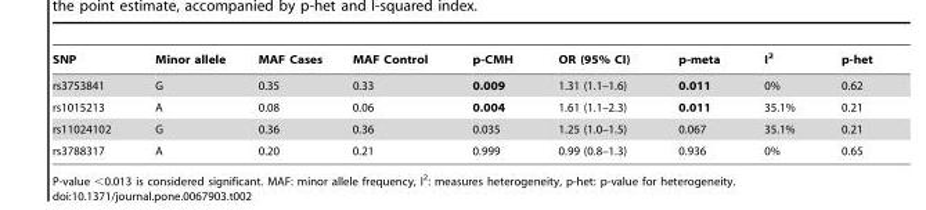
<table><thead><tr><td>SNP</td><td>Minor allele</td><td>MAF Cases</td><td>MAF Control</td><td>p-CMH</td><td>OR (95% CI)</td><td>p-meta</td><td>I<sup>2</sup></td><td>p-het</td></tr></thead><tbody><tr><td>rs3753841</td><td>G</td><td>0.35</td><td>0.33</td><td>0.009</td><td>1.31 (1.1–1.6)</td><td>0.011</td><td>0%</td><td>0.62</td></tr><tr><td>rs1015213</td><td>A</td><td>0.08</td><td>0.06</td><td>0.004</td><td>1.61 (1.1–2.3)</td><td>0.011</td><td>35.1%</td><td>0.21</td></tr><tr><td>rs11024102</td><td>G</td><td>0.36</td><td>0.36</td><td>0.035</td><td>1.25 (1.0–1.5)</td><td>0.067</td><td>35.1%</td><td>0.21</td></tr><tr><td>rs3788317</td><td>A</td><td>0.20</td><td>0.21</td><td>0.999</td><td>0.99 (0.8–1.3)</td><td>0.936</td><td>0%</td><td>0.65</td></tr></tbody></table>